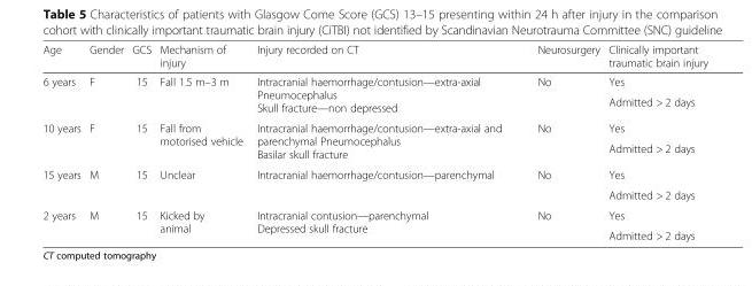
<table><thead><tr><td>Age</td><td>Gender</td><td>GCS</td><td>Mechanism of injury</td><td>Injury recorded on CT</td><td>Neurosurgery</td><td>Clinically important traumatic brain injury</td></tr></thead><tbody><tr><td rowspan="2">6 years</td><td rowspan="2">F</td><td rowspan="2">15</td><td rowspan="2">Fall 1.5 m–3 m</td><td rowspan="2">Intracranial haemorrhage/contusion—extra-axial Pneumocephalus Skull fracture—non depressed</td><td rowspan="2">No</td><td>Yes</td></tr><tr><td>Admitted &gt; 2 days</td></tr><tr><td rowspan="2">10 years</td><td rowspan="2">F</td><td rowspan="2">15</td><td rowspan="2">Fall from motorised vehicle</td><td rowspan="2">Intracranial haemorrhage/contusion—extra-axial and parenchymal Pneumocephalus Basilar skull fracture</td><td rowspan="2">No</td><td>Yes</td></tr><tr><td>Admitted &gt; 2 days</td></tr><tr><td rowspan="2">15 years</td><td rowspan="2">M</td><td rowspan="2">15</td><td rowspan="2">Unclear</td><td rowspan="2">Intracranial haemorrhage/contusion—parenchymal</td><td rowspan="2">No</td><td>Yes</td></tr><tr><td>Admitted &gt; 2 days</td></tr><tr><td rowspan="2">2 years</td><td rowspan="2">M</td><td rowspan="2">15</td><td rowspan="2">Kicked by animal</td><td rowspan="2">Intracranial contusion—parenchymal Depressed skull fracture</td><td rowspan="2">No</td><td>Yes</td></tr><tr><td>Admitted &gt; 2 days</td></tr></tbody></table>